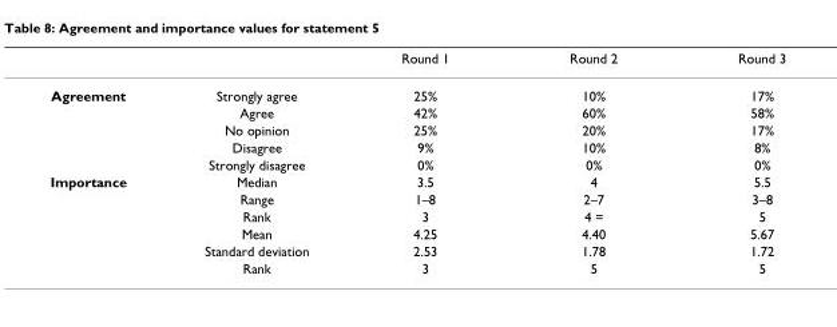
<table><thead><tr><td></td><td></td><td>Round 1</td><td>Round 2</td><td>Round 3</td></tr></thead><tbody><tr><td rowspan="5">Agreement</td><td>Strongly agree</td><td>25%</td><td>10%</td><td>17%</td></tr><tr><td>Agree</td><td>42%</td><td>60%</td><td>58%</td></tr><tr><td>No opinion</td><td>25%</td><td>20%</td><td>17%</td></tr><tr><td>Disagree</td><td>9%</td><td>10%</td><td>8%</td></tr><tr><td>Strongly disagree</td><td>0%</td><td>0%</td><td>0%</td></tr><tr><td rowspan="6">Importance</td><td>Median</td><td>3.5</td><td>4</td><td>5.5</td></tr><tr><td>Range</td><td>1–8</td><td>2–7</td><td>3–8</td></tr><tr><td>Rank</td><td>3</td><td>4 =</td><td>5</td></tr><tr><td>Mean</td><td>4.25</td><td>4.40</td><td>5.67</td></tr><tr><td>Standard deviation</td><td>2.53</td><td>1.78</td><td>1.72</td></tr><tr><td>Rank</td><td>3</td><td>5</td><td>5</td></tr></tbody></table>